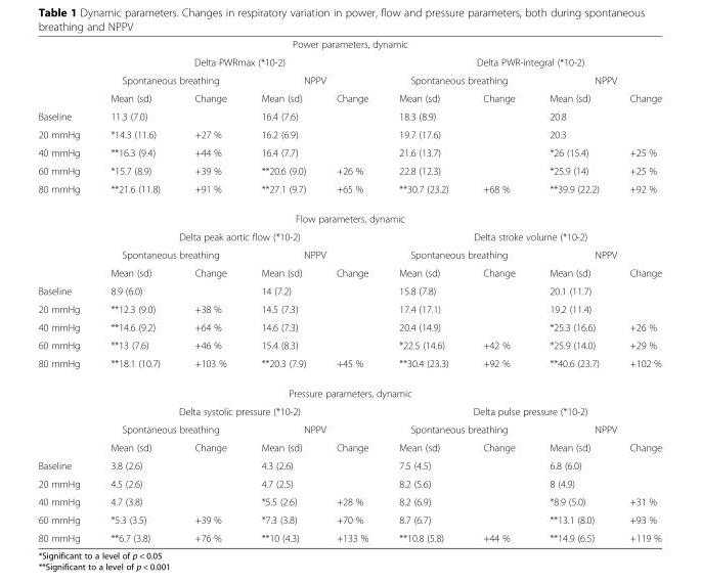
<table><tbody><tr><td colspan="9">Power parameters, dynamic</td></tr><tr><td></td><td colspan="4">Delta PWRmax (*10-2)</td><td colspan="4">Delta PWR-integral (*10-2)</td></tr><tr><td></td><td colspan="2">Spontaneous breathing</td><td colspan="2">NPPV</td><td colspan="2">Spontaneous breathing</td><td colspan="2">NPPV</td></tr><tr><td></td><td>Mean (sd)</td><td>Change</td><td>Mean (sd)</td><td>Change</td><td>Mean (sd)</td><td>Change</td><td>Mean (sd)</td><td>Change</td></tr><tr><td>Baseline</td><td>11.3 (7.0)</td><td></td><td>16.4 (7.6)</td><td></td><td>18.3 (8.9)</td><td></td><td>20.8</td><td></td></tr><tr><td>20 mmHg</td><td>*14.3 (11.6)</td><td>+27 %</td><td>16.2 (6.9)</td><td></td><td>19.7 (17.6)</td><td></td><td>20.3</td><td></td></tr><tr><td>40 mmHg</td><td>**16.3 (9.4)</td><td>+44 %</td><td>16.4 (7.7)</td><td></td><td>21.6 (13.7)</td><td></td><td>*26 (15.4)</td><td>+25 %</td></tr><tr><td>60 mmHg</td><td>*15.7 (8.9)</td><td>+39 %</td><td>**20.6 (9.0)</td><td>+26 %</td><td>22.8 (12.3)</td><td></td><td>*25.9 (14)</td><td>+25 %</td></tr><tr><td>80 mmHg</td><td>**21.6 (11.8)</td><td>+91 %</td><td>**27.1 (9.7)</td><td>+65 %</td><td>**30.7 (23.2)</td><td>+68 %</td><td>**39.9 (22.2)</td><td>+92 %</td></tr><tr><td colspan="9">Flow parameters, dynamic</td></tr><tr><td></td><td colspan="4">Delta peak aortic flow (*10-2)</td><td colspan="4">Delta stroke volume (*10-2)</td></tr><tr><td></td><td colspan="2">Spontaneous breathing</td><td colspan="2">NPPV</td><td colspan="2">Spontaneous breathing</td><td colspan="2">NPPV</td></tr><tr><td></td><td>Mean (sd)</td><td>Change</td><td>Mean (sd)</td><td>Change</td><td>Mean (sd)</td><td>Change</td><td>Mean (sd)</td><td>Change</td></tr><tr><td>Baseline</td><td>8.9 (6.0)</td><td></td><td>14 (7.2)</td><td></td><td>15.8 (7.8)</td><td></td><td>20.1 (11.7)</td><td></td></tr><tr><td>20 mmHg</td><td>**12.3 (9.0)</td><td>+38 %</td><td>14.5 (7.3)</td><td></td><td>17.4 (17.1)</td><td></td><td>19.2 (11.4)</td><td></td></tr><tr><td>40 mmHg</td><td>**14.6 (9.2)</td><td>+64 %</td><td>14.6 (7.3)</td><td></td><td>20.4 (14.9)</td><td></td><td>*25.3 (16.6)</td><td>+26 %</td></tr><tr><td>60 mmHg</td><td>**13 (7.6)</td><td>+46 %</td><td>15.4 (8.3)</td><td></td><td>*22.5 (14.6)</td><td>+42 %</td><td>*25.9 (14.0)</td><td>+29 %</td></tr><tr><td>80 mmHg</td><td>**18.1 (10.7)</td><td>+103 %</td><td>**20.3 (7.9)</td><td>+45 %</td><td>**30.4 (23.3)</td><td>+92 %</td><td>**40.6 (23.7)</td><td>+102 %</td></tr><tr><td colspan="9">Pressure parameters, dynamic</td></tr><tr><td></td><td colspan="4">Delta systolic pressure (*10-2)</td><td colspan="4">Delta pulse pressure (*10-2)</td></tr><tr><td></td><td colspan="2">Spontaneous breathing</td><td colspan="2">NPPV</td><td colspan="2">Spontaneous breathing</td><td colspan="2">NPPV</td></tr><tr><td></td><td>Mean (sd)</td><td>Change</td><td>Mean (sd)</td><td>Change</td><td>Mean (sd)</td><td>Change</td><td>Mean (sd)</td><td>Change</td></tr><tr><td>Baseline</td><td>3.8 (2.6)</td><td></td><td>4.3 (2.6)</td><td></td><td>7.5 (4.5)</td><td></td><td>6.8 (6.0)</td><td></td></tr><tr><td>20 mmHg</td><td>4.5 (2.6)</td><td></td><td>4.7 (2.5)</td><td></td><td>8.2 (5.6)</td><td></td><td>8 (4.9)</td><td></td></tr><tr><td>40 mmHg</td><td>4.7 (3.8)</td><td></td><td>*5.5 (2.6)</td><td>+28 %</td><td>8.2 (6.9)</td><td></td><td>*8.9 (5.0)</td><td>+31 %</td></tr><tr><td>60 mmHg</td><td>*5.3 (3.5)</td><td>+39 %</td><td>*7.3 (3.8)</td><td>+70 %</td><td>8.7 (6.7)</td><td></td><td>**13.1 (8.0)</td><td>+93 %</td></tr><tr><td>80 mmHg</td><td>**6.7 (3.8)</td><td>+76 %</td><td>**10 (4.3)</td><td>+133 %</td><td>**10.8 (5.8)</td><td>+44 %</td><td>**14.9 (6.5)</td><td>+119 %</td></tr></tbody></table>